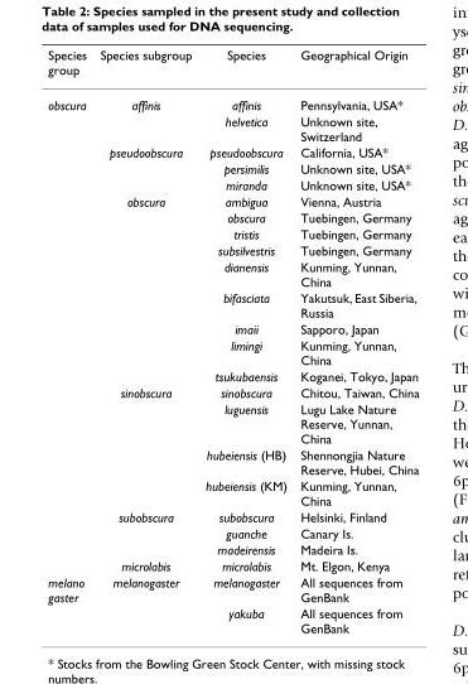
<table><thead><tr><td>Species group</td><td>Species subgroup</td><td>Species</td><td>Geographical Origin</td></tr></thead><tbody><tr><td rowspan="22">obscura</td><td>affinis</td><td>affinis</td><td>Pennsylvania, USA*</td></tr><tr><td></td><td>helvetica</td><td>Unknown site, Switzerland</td></tr><tr><td>pseudoobscura</td><td>pseudoobscura</td><td>California, USA*</td></tr><tr><td></td><td>persimilis</td><td>Unknown site, USA*</td></tr><tr><td></td><td>miranda</td><td>Unknown site, USA*</td></tr><tr><td>obscura</td><td>ambigua</td><td>Vienna, Austria</td></tr><tr><td></td><td>obscura</td><td>Tuebingen, Germany</td></tr><tr><td></td><td>tristis</td><td>Tuebingen, Germany</td></tr><tr><td></td><td>subsilvestris</td><td>Tuebingen, Germany</td></tr><tr><td></td><td>dianensis</td><td>Kunming, Yunnan, China</td></tr><tr><td></td><td>bifasciata</td><td>Yakutsuk, East Siberia, Russia</td></tr><tr><td></td><td>imaii</td><td>Sapporo, Japan</td></tr><tr><td></td><td>limingi</td><td>Kunming, Yunnan, China</td></tr><tr><td></td><td>tsukubaensis</td><td>Koganei, Tokyo, Japan</td></tr><tr><td>sinobscura</td><td>sinobscura</td><td>Chitou, Taiwan, China</td></tr><tr><td></td><td>luguensis</td><td>Lugu Lake Nature Reserve, Yunnan, China</td></tr><tr><td></td><td>hubeiensis (HB)</td><td>Shennongjia Nature Reserve, Hubei, China</td></tr><tr><td></td><td>hubeiensis (KM)</td><td>Kunming, Yunnan, China</td></tr><tr><td>subobscura</td><td>subobscura</td><td>Helsinki, Finland</td></tr><tr><td></td><td>guanche</td><td>Canary Is.</td></tr><tr><td></td><td>madeirensis</td><td>Madeira Is.</td></tr><tr><td>microlabis</td><td>microlabis</td><td>Mt. Elgon, Kenya</td></tr><tr><td rowspan="2">melano gaster</td><td>melanogaster</td><td>melanogaster</td><td>All sequences from GenBank</td></tr><tr><td></td><td>yakuba</td><td>All sequences from GenBank</td></tr></tbody></table>